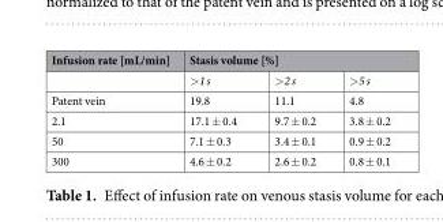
<table><thead><tr><td rowspan="2">Infusion rate [mL/min]</td><td colspan="3">Stasis volume [%]</td></tr><tr><td>&gt;1 s</td><td>&gt;2 s</td><td>&gt;5 s</td></tr></thead><tbody><tr><td>Patent vein</td><td>19.8</td><td>11.1</td><td>4.8</td></tr><tr><td>2.1</td><td>17.1 ± 0.4</td><td>9.7 ± 0.2</td><td>3.8 ± 0.2</td></tr><tr><td>50</td><td>7.1 ± 0.3</td><td>3.4 ± 0.1</td><td>0.9 ± 0.2</td></tr><tr><td>300</td><td>4.6 ± 0.2</td><td>2.6 ± 0.2</td><td>0.8 ± 0.1</td></tr></tbody></table>